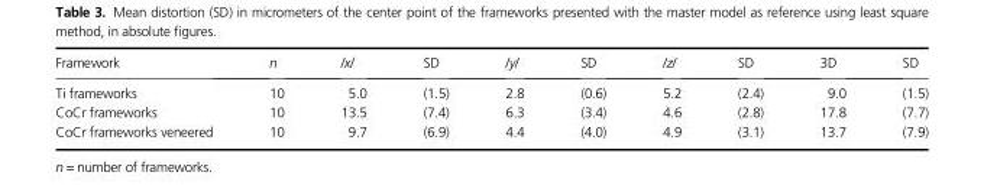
<table><thead><tr><td>Framework</td><td>n</td><td>/x/</td><td>SD</td><td>/y/</td><td>SD</td><td>/z/</td><td>SD</td><td>3D</td><td>SD</td></tr></thead><tbody><tr><td>Ti frameworks</td><td>10</td><td>5.0</td><td>(1.5)</td><td>2.8</td><td>(0.6)</td><td>5.2</td><td>(2.4)</td><td>9.0</td><td>(1.5)</td></tr><tr><td>CoCr frameworks</td><td>10</td><td>13.5</td><td>(7.4)</td><td>6.3</td><td>(3.4)</td><td>4.6</td><td>(2.8)</td><td>17.8</td><td>(7.7)</td></tr><tr><td>CoCr frameworks veneered</td><td>10</td><td>9.7</td><td>(6.9)</td><td>4.4</td><td>(4.0)</td><td>4.9</td><td>(3.1)</td><td>13.7</td><td>(7.9)</td></tr></tbody></table>